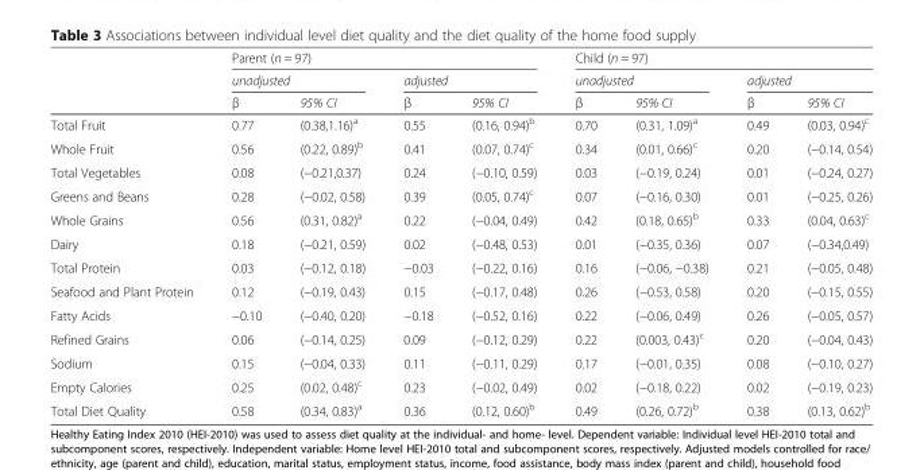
<table><thead><tr><td rowspan="3"></td><td colspan="4">Parent (n = 97)</td><td colspan="4">Child (n = 97)</td></tr><tr><td colspan="2">unadjusted</td><td colspan="2">adjusted</td><td colspan="2">unadjusted</td><td colspan="2">adjusted</td></tr><tr><td>β</td><td>95% CI</td><td>β</td><td>95% CI</td><td>β</td><td>95% CI</td><td>β</td><td>95% CI</td></tr></thead><tbody><tr><td>Total Fruit</td><td>0.77</td><td>(0.38,1.16)<sup>a</sup></td><td>0.55</td><td>(0.16, 0.94)<sup>b</sup></td><td>0.70</td><td>(0.31, 1.09)<sup>a</sup></td><td>0.49</td><td>(0.03, 0.94)<sup>c</sup></td></tr><tr><td>Whole Fruit</td><td>0.56</td><td>(0.22, 0.89)<sup>b</sup></td><td>0.41</td><td>(0.07, 0.74)<sup>c</sup></td><td>0.34</td><td>(0.01, 0.66)<sup>c</sup></td><td>0.20</td><td>(−0.14, 0.54)</td></tr><tr><td>Total Vegetables</td><td>0.08</td><td>(−0.21,0.37)</td><td>0.24</td><td>(−0.10, 0.59)</td><td>0.03</td><td>(−0.19, 0.24)</td><td>0.01</td><td>(−0.24, 0.27)</td></tr><tr><td>Greens and Beans</td><td>0.28</td><td>(−0.02, 0.58)</td><td>0.39</td><td>(0.05, 0.74)<sup>c</sup></td><td>0.07</td><td>(−0.16, 0.30)</td><td>0.01</td><td>(−0.25, 0.26)</td></tr><tr><td>Whole Grains</td><td>0.56</td><td>(0.31, 0.82)<sup>a</sup></td><td>0.22</td><td>(−0.04, 0.49)</td><td>0.42</td><td>(0.18, 0.65)<sup>b</sup></td><td>0.33</td><td>(0.04, 0.63)<sup>c</sup></td></tr><tr><td>Dairy</td><td>0.18</td><td>(−0.21, 0.59)</td><td>0.02</td><td>(−0.48, 0.53)</td><td>0.01</td><td>(−0.35, 0.36)</td><td>0.07</td><td>(−0.34,0.49)</td></tr><tr><td>Total Protein</td><td>0.03</td><td>(−0.12, 0.18)</td><td>−0.03</td><td>(−0.22, 0.16)</td><td>0.16</td><td>(−0.06, −0.38)</td><td>0.21</td><td>(−0.05, 0.48)</td></tr><tr><td>Seafood and Plant Protein</td><td>0.12</td><td>(−0.19, 0.43)</td><td>0.15</td><td>(−0.17, 0.48)</td><td>0.26</td><td>(−0.53, 0.58)</td><td>0.20</td><td>(−0.15, 0.55)</td></tr><tr><td>Fatty Acids</td><td>−0.10</td><td>(−0.40, 0.20)</td><td>−0.18</td><td>(−0.52, 0.16)</td><td>0.22</td><td>(−0.06, 0.49)</td><td>0.26</td><td>(−0.05, 0.57)</td></tr><tr><td>Refined Grains</td><td>0.06</td><td>(−0.14, 0.25)</td><td>0.09</td><td>(−0.12, 0.29)</td><td>0.22</td><td>(0.003, 0.43)<sup>c</sup></td><td>0.20</td><td>(−0.04, 0.43)</td></tr><tr><td>Sodium</td><td>0.15</td><td>(−0.04, 0.33)</td><td>0.11</td><td>(−0.11, 0.29)</td><td>0.17</td><td>(−0.01, 0.35)</td><td>0.08</td><td>(−0.10, 0.27)</td></tr><tr><td>Empty Calories</td><td>0.25</td><td>(0.02, 0.48)<sup>c</sup></td><td>0.23</td><td>(−0.02, 0.49)</td><td>0.02</td><td>(−0.18, 0.22)</td><td>0.02</td><td>(−0.19, 0.23)</td></tr><tr><td>Total Diet Quality</td><td>0.58</td><td>(0.34, 0.83)<sup>a</sup></td><td>0.36</td><td>(0.12, 0.60)<sup>b</sup></td><td>0.49</td><td>(0.26, 0.72)<sup>b</sup></td><td>0.38</td><td>(0.13, 0.62)<sup>b</sup></td></tr></tbody></table>